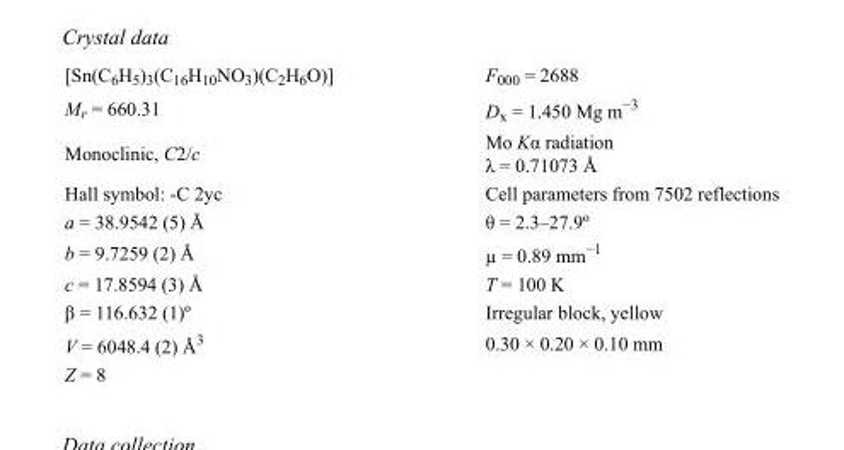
<table><tbody><tr><td>[Sn(C<sub>6</sub>H<sub>5</sub>)<sub>3</sub>(C<sub>16</sub>H<sub>10</sub>NO<sub>3</sub>)(C<sub>2</sub>H<sub>6</sub>O)]</td><td>F000 = 2688</td></tr><tr><td>M<sub>r</sub> = 660.31</td><td>D<sub>x</sub> = 1.450 Mg m<sup>−3</sup></td></tr><tr><td>Monoclinic, C2/c</td><td>Mo Kα radiation λ = 0.71073 Å</td></tr><tr><td>Hall symbol: -C 2yc</td><td>Cell parameters from 7502 reflections</td></tr><tr><td>a = 38.9542 (5) Å</td><td>θ = 2.3–27.9º</td></tr><tr><td>b = 9.7259 (2) Å</td><td>µ = 0.89 mm<sup>−1</sup></td></tr><tr><td>c = 17.8594 (3) Å</td><td>T = 100 K</td></tr><tr><td>β = 116.632 (1)º</td><td>Irregular block, yellow</td></tr><tr><td>V = 6048.4 (2) Å<sup>3</sup></td><td>0.30 × 0.20 × 0.10 mm</td></tr><tr><td>Z = 8</td><td></td></tr></tbody></table>